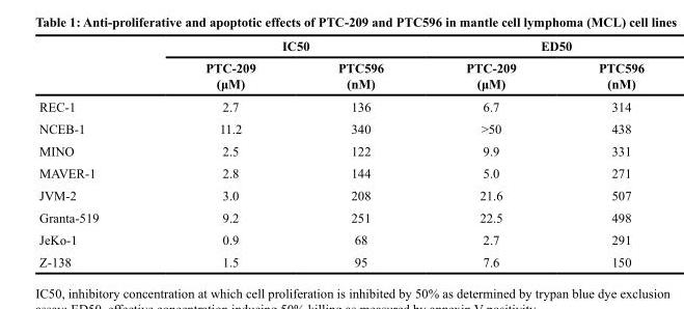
<table><thead><tr><td rowspan="2"></td><td colspan="2">IC50</td><td colspan="2">ED50</td></tr><tr><td>PTC-209 (μM)</td><td>PTC596 (nM)</td><td>PTC-209 (μM)</td><td>PTC596 (nM)</td></tr></thead><tbody><tr><td>REC-1</td><td>2.7</td><td>136</td><td>6.7</td><td>314</td></tr><tr><td>NCEB-1</td><td>11.2</td><td>340</td><td>&gt;50</td><td>438</td></tr><tr><td>MINO</td><td>2.5</td><td>122</td><td>9.9</td><td>331</td></tr><tr><td>MAVER-1</td><td>2.8</td><td>144</td><td>5.0</td><td>271</td></tr><tr><td>JVM-2</td><td>3.0</td><td>208</td><td>21.6</td><td>507</td></tr><tr><td>Granta-519</td><td>9.2</td><td>251</td><td>22.5</td><td>498</td></tr><tr><td>JeKo-1</td><td>0.9</td><td>68</td><td>2.7</td><td>291</td></tr><tr><td>Z-138</td><td>1.5</td><td>95</td><td>7.6</td><td>150</td></tr></tbody></table>